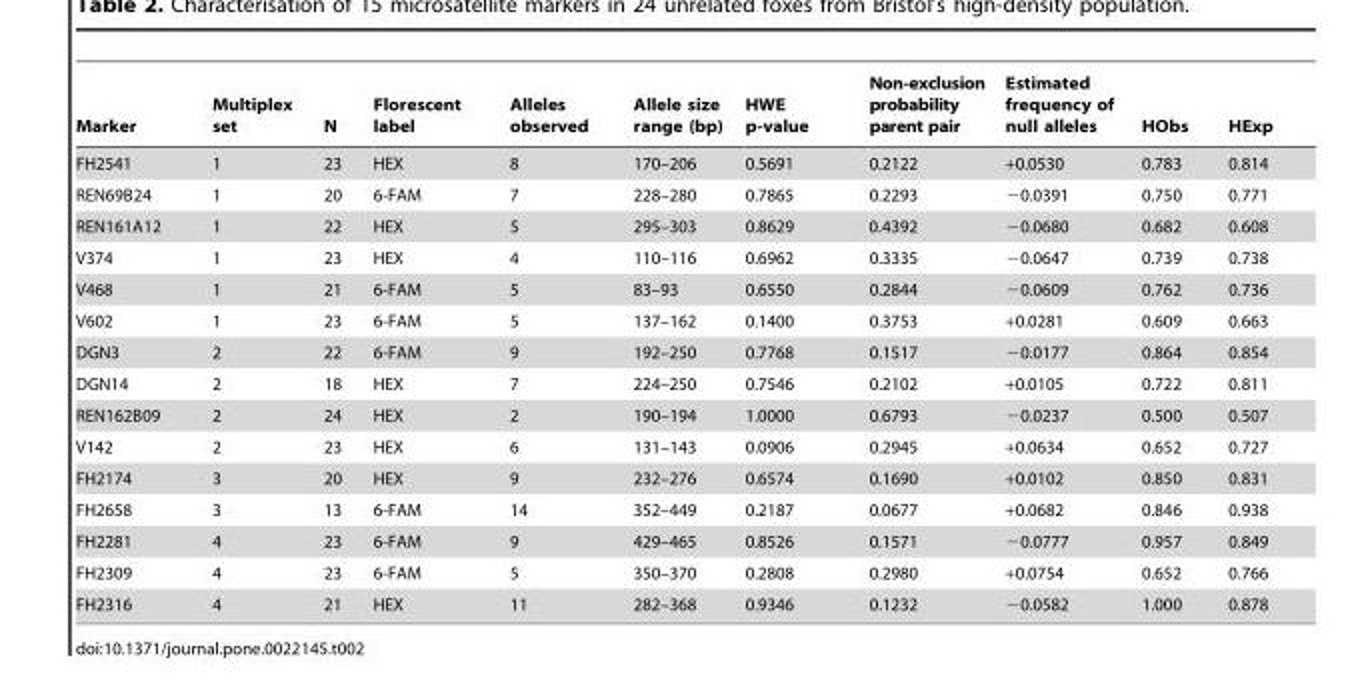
<table><thead><tr><td>Marker</td><td>Multiplex set</td><td>N</td><td>Florescent label</td><td>Alleles observed</td><td>Allele size range (bp)</td><td>HWE p-value</td><td>Non-exclusion probability parent pair</td><td>Estimated frequency of null alleles</td><td>HObs</td><td>HExp</td></tr></thead><tbody><tr><td>FH2541</td><td>1</td><td>23</td><td>HEX</td><td>8</td><td>170–206</td><td>0.5691</td><td>0.2122</td><td>+0.0530</td><td>0.783</td><td>0.814</td></tr><tr><td>REN69B24</td><td>1</td><td>20</td><td>6-FAM</td><td>7</td><td>228–280</td><td>0.7865</td><td>0.2293</td><td>−0.0391</td><td>0.750</td><td>0.771</td></tr><tr><td>REN161A12</td><td>1</td><td>22</td><td>HEX</td><td>5</td><td>295–303</td><td>0.8629</td><td>0.4392</td><td>−0.0680</td><td>0.682</td><td>0.608</td></tr><tr><td>V374</td><td>1</td><td>23</td><td>HEX</td><td>4</td><td>110–116</td><td>0.6962</td><td>0.3335</td><td>−0.0647</td><td>0.739</td><td>0.738</td></tr><tr><td>V468</td><td>1</td><td>21</td><td>6-FAM</td><td>5</td><td>83–93</td><td>0.6550</td><td>0.2844</td><td>−0.0609</td><td>0.762</td><td>0.736</td></tr><tr><td>V602</td><td>1</td><td>23</td><td>6-FAM</td><td>5</td><td>137–162</td><td>0.1400</td><td>0.3753</td><td>+0.0281</td><td>0.609</td><td>0.663</td></tr><tr><td>DGN3</td><td>2</td><td>22</td><td>6-FAM</td><td>9</td><td>192–250</td><td>0.7768</td><td>0.1517</td><td>−0.0177</td><td>0.864</td><td>0.854</td></tr><tr><td>DGN14</td><td>2</td><td>18</td><td>HEX</td><td>7</td><td>224–250</td><td>0.7546</td><td>0.2102</td><td>+0.0105</td><td>0.722</td><td>0.811</td></tr><tr><td>REN162B09</td><td>2</td><td>24</td><td>HEX</td><td>2</td><td>190–194</td><td>1.0000</td><td>0.6793</td><td>−0.0237</td><td>0.500</td><td>0.507</td></tr><tr><td>V142</td><td>2</td><td>23</td><td>HEX</td><td>6</td><td>131–143</td><td>0.0906</td><td>0.2945</td><td>+0.0634</td><td>0.652</td><td>0.727</td></tr><tr><td>FH2174</td><td>3</td><td>20</td><td>HEX</td><td>9</td><td>232–276</td><td>0.6574</td><td>0.1690</td><td>+0.0102</td><td>0.850</td><td>0.831</td></tr><tr><td>FH2658</td><td>3</td><td>13</td><td>6-FAM</td><td>14</td><td>352–449</td><td>0.2187</td><td>0.0677</td><td>+0.0682</td><td>0.846</td><td>0.938</td></tr><tr><td>FH2281</td><td>4</td><td>23</td><td>6-FAM</td><td>9</td><td>429–465</td><td>0.8526</td><td>0.1571</td><td>−0.0777</td><td>0.957</td><td>0.849</td></tr><tr><td>FH2309</td><td>4</td><td>23</td><td>6-FAM</td><td>5</td><td>350–370</td><td>0.2808</td><td>0.2980</td><td>+0.0754</td><td>0.652</td><td>0.766</td></tr><tr><td>FH2316</td><td>4</td><td>21</td><td>HEX</td><td>11</td><td>282–368</td><td>0.9346</td><td>0.1232</td><td>−0.0582</td><td>1.000</td><td>0.878</td></tr></tbody></table>